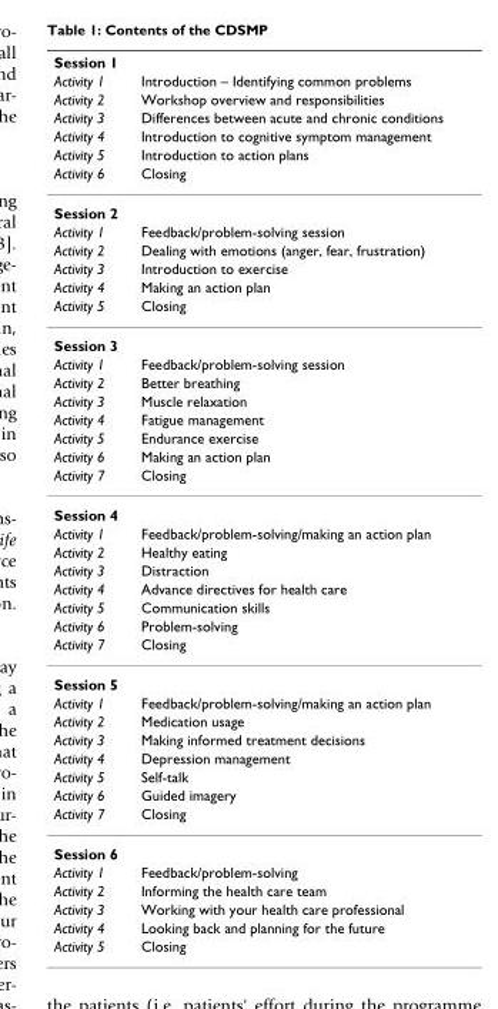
<table><thead><tr><td rowspan="7">Session 1 Activity 1 Activity 2 Activity 3 Activity 4 Activity 5 Activity 6</td><td rowspan="7">Introduction – Identifying common problems Workshop overview and responsibilities Differences between acute and chronic conditions Introduction to cognitive symptom management Introduction to action plans Closing</td></tr><tr></tr><tr></tr><tr></tr><tr></tr><tr></tr><tr></tr></thead><tbody><tr><td colspan="2">Session 2</td></tr><tr><td>Activity 1</td><td>Feedback/problem-solving session</td></tr><tr><td>Activity 2</td><td>Dealing with emotions (anger, fear, frustration)</td></tr><tr><td>Activity 3</td><td>Introduction to exercise</td></tr><tr><td>Activity 4</td><td>Making an action plan</td></tr><tr><td>Activity 5</td><td>Closing</td></tr><tr><td colspan="2">Session 3</td></tr><tr><td>Activity 1</td><td>Feedback/problem-solving session</td></tr><tr><td>Activity 2</td><td>Better breathing</td></tr><tr><td>Activity 3</td><td>Muscle relaxation</td></tr><tr><td>Activity 4</td><td>Fatigue management</td></tr><tr><td>Activity 5</td><td>Endurance exercise</td></tr><tr><td>Activity 6</td><td>Making an action plan</td></tr><tr><td>Activity 7</td><td>Closing</td></tr><tr><td colspan="2">Session 4</td></tr><tr><td>Activity 1</td><td>Feedback/problem-solving/making an action plan</td></tr><tr><td>Activity 2</td><td>Healthy eating</td></tr><tr><td>Activity 3</td><td>Distraction</td></tr><tr><td>Activity 4</td><td>Advance directives for health care</td></tr><tr><td>Activity 5</td><td>Communication skills</td></tr><tr><td>Activity 6</td><td>Problem-solving</td></tr><tr><td>Activity 7</td><td>Closing</td></tr><tr><td colspan="2">Session 5</td></tr><tr><td>Activity 1</td><td>Feedback/problem-solving/making an action plan</td></tr><tr><td>Activity 2</td><td>Medication usage</td></tr><tr><td>Activity 3</td><td>Making informed treatment decisions</td></tr><tr><td>Activity 4</td><td>Depression management</td></tr><tr><td>Activity 5</td><td>Self-talk</td></tr><tr><td>Activity 6</td><td>Guided imagery</td></tr><tr><td>Activity 7</td><td>Closing</td></tr><tr><td colspan="2">Session 6</td></tr><tr><td>Activity 1</td><td>Feedback/problem-solving</td></tr><tr><td>Activity 2</td><td>Informing the health care team</td></tr><tr><td>Activity 3</td><td>Working with your health care professional</td></tr><tr><td>Activity 4</td><td>Looking back and planning for the future</td></tr><tr><td>Activity 5</td><td>Closing</td></tr></tbody></table>